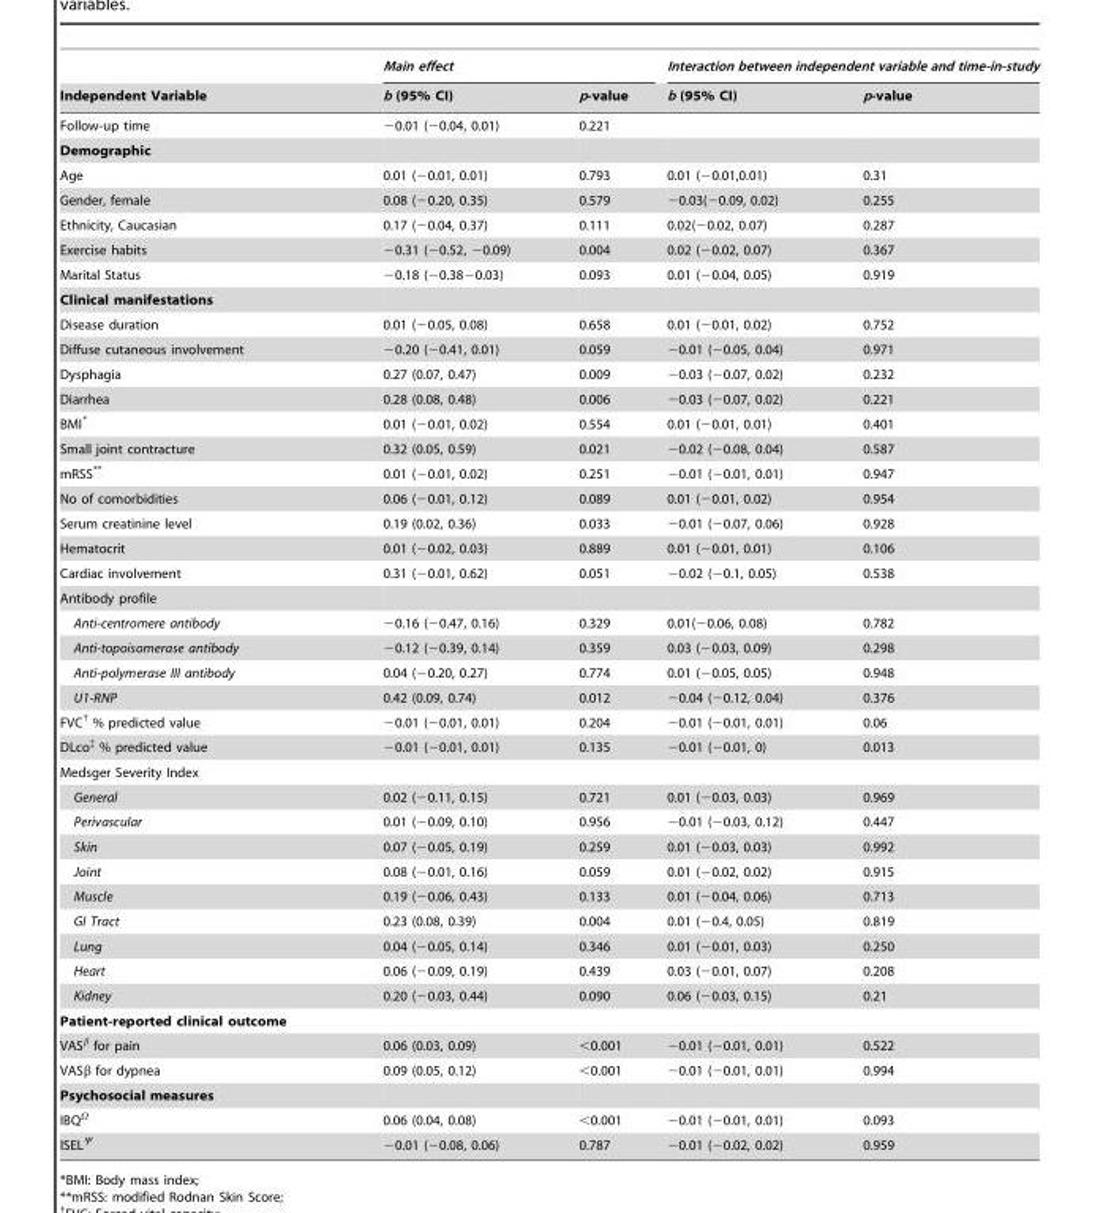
<table><thead><tr><td rowspan="2">Independent Variable</td><td colspan="2">Main effect</td><td colspan="2">Interaction between independent variable and time-in-study</td></tr><tr><td>b (95% CI)</td><td>p-value</td><td>b (95% CI)</td><td>p-value</td></tr></thead><tbody><tr><td>Follow-up time</td><td>−0.01 (−0.04, 0.01)</td><td>0.221</td><td></td><td></td></tr><tr><td colspan="5">Demographic</td></tr><tr><td>Age</td><td>0.01 (−0.01, 0.01)</td><td>0.793</td><td>0.01 (−0.01,0.01)</td><td>0.31</td></tr><tr><td>Gender, female</td><td>0.08 (−0.20, 0.35)</td><td>0.579</td><td>−0.03(−0.09, 0.02)</td><td>0.255</td></tr><tr><td>Ethnicity, Caucasian</td><td>0.17 (−0.04, 0.37)</td><td>0.111</td><td>0.02(−0.02, 0.07)</td><td>0.287</td></tr><tr><td>Exercise habits</td><td>−0.31 (−0.52, −0.09)</td><td>0.004</td><td>0.02 (−0.02, 0.07)</td><td>0.367</td></tr><tr><td>Marital Status</td><td>−0.18 (−0.38−0.03)</td><td>0.093</td><td>0.01 (−0.04, 0.05)</td><td>0.919</td></tr><tr><td colspan="5">Clinical manifestations</td></tr><tr><td>Disease duration</td><td>0.01 (−0.05, 0.08)</td><td>0.658</td><td>0.01 (−0.01, 0.02)</td><td>0.752</td></tr><tr><td>Diffuse cutaneous involvement</td><td>−0.20 (−0.41, 0.01)</td><td>0.059</td><td>−0.01 (−0.05, 0.04)</td><td>0.971</td></tr><tr><td>Dysphagia</td><td>0.27 (0.07, 0.47)</td><td>0.009</td><td>−0.03 (−0.07, 0.02)</td><td>0.232</td></tr><tr><td>Diarrhea</td><td>0.28 (0.08, 0.48)</td><td>0.006</td><td>−0.03 (−0.07, 0.02)</td><td>0.221</td></tr><tr><td>BMI*</td><td>0.01 (−0.01, 0.02)</td><td>0.554</td><td>0.01 (−0.01, 0.01)</td><td>0.401</td></tr><tr><td>Small joint contracture</td><td>0.32 (0.05, 0.59)</td><td>0.021</td><td>−0.02 (−0.08, 0.04)</td><td>0.587</td></tr><tr><td>mRSS**</td><td>0.01 (−0.01, 0.02)</td><td>0.251</td><td>−0.01 (−0.01, 0.01)</td><td>0.947</td></tr><tr><td>No of comorbidities</td><td>0.06 (−0.01, 0.12)</td><td>0.089</td><td>0.01 (−0.01, 0.02)</td><td>0.954</td></tr><tr><td>Serum creatinine level</td><td>0.19 (0.02, 0.36)</td><td>0.033</td><td>−0.01 (−0.07, 0.06)</td><td>0.928</td></tr><tr><td>Hematocrit</td><td>0.01 (−0.02, 0.03)</td><td>0.889</td><td>0.01 (−0.01, 0.01)</td><td>0.106</td></tr><tr><td>Cardiac involvement</td><td>0.31 (−0.01, 0.62)</td><td>0.051</td><td>−0.02 (−0.1, 0.05)</td><td>0.538</td></tr><tr><td colspan="5">Antibody profile</td></tr><tr><td>Anti-centromere antibody</td><td>−0.16 (−0.47, 0.16)</td><td>0.329</td><td>0.01(−0.06, 0.08)</td><td>0.782</td></tr><tr><td>Anti-topoisomerase antibody</td><td>−0.12 (−0.39, 0.14)</td><td>0.359</td><td>0.03 (−0.03, 0.09)</td><td>0.298</td></tr><tr><td>Anti-polymerase III antibody</td><td>0.04 (−0.20, 0.27)</td><td>0.774</td><td>0.01 (−0.05, 0.05)</td><td>0.948</td></tr><tr><td>U1-RNP</td><td>0.42 (0.09, 0.74)</td><td>0.012</td><td>−0.04 (−0.12, 0.04)</td><td>0.376</td></tr><tr><td>FVC† % predicted value</td><td>−0.01 (−0.01, 0.01)</td><td>0.204</td><td>−0.01 (−0.01, 0.01)</td><td>0.06</td></tr><tr><td>DLco‡ % predicted value</td><td>−0.01 (−0.01, 0.01)</td><td>0.135</td><td>−0.01 (−0.01, 0)</td><td>0.013</td></tr><tr><td colspan="5">Medsger Severity Index</td></tr><tr><td>General</td><td>0.02 (−0.11, 0.15)</td><td>0.721</td><td>0.01 (−0.03, 0.03)</td><td>0.969</td></tr><tr><td>Perivascular</td><td>0.01 (−0.09, 0.10)</td><td>0.956</td><td>−0.01 (−0.03, 0.12)</td><td>0.447</td></tr><tr><td>Skin</td><td>0.07 (−0.05, 0.19)</td><td>0.259</td><td>0.01 (−0.03, 0.03)</td><td>0.992</td></tr><tr><td>Joint</td><td>0.08 (−0.01, 0.16)</td><td>0.059</td><td>0.01 (−0.02, 0.02)</td><td>0.915</td></tr><tr><td>Muscle</td><td>0.19 (−0.06, 0.43)</td><td>0.133</td><td>0.01 (−0.04, 0.06)</td><td>0.713</td></tr><tr><td>GI Tract</td><td>0.23 (0.08, 0.39)</td><td>0.004</td><td>0.01 (−0.4, 0.05)</td><td>0.819</td></tr><tr><td>Lung</td><td>0.04 (−0.05, 0.14)</td><td>0.346</td><td>0.01 (−0.01, 0.03)</td><td>0.250</td></tr><tr><td>Heart</td><td>0.06 (−0.09, 0.19)</td><td>0.439</td><td>0.03 (−0.01, 0.07)</td><td>0.208</td></tr><tr><td>Kidney</td><td>0.20 (−0.03, 0.44)</td><td>0.090</td><td>0.06 (−0.03, 0.15)</td><td>0.21</td></tr><tr><td colspan="5">Patient-reported clinical outcome</td></tr><tr><td>VASβ for pain</td><td>0.06 (0.03, 0.09)</td><td>&lt;0.001</td><td>−0.01 (−0.01, 0.01)</td><td>0.522</td></tr><tr><td>VASβ for dypnea</td><td>0.09 (0.05, 0.12)</td><td>&lt;0.001</td><td>−0.01 (−0.01, 0.01)</td><td>0.994</td></tr><tr><td colspan="5">Psychosocial measures</td></tr><tr><td>IBQΩ</td><td>0.06 (0.04, 0.08)</td><td>&lt;0.001</td><td>−0.01 (−0.01, 0.01)</td><td>0.093</td></tr><tr><td>ISELΨ</td><td>−0.01 (−0.08, 0.06)</td><td>0.787</td><td>−0.01 (−0.02, 0.02)</td><td>0.959</td></tr></tbody></table>